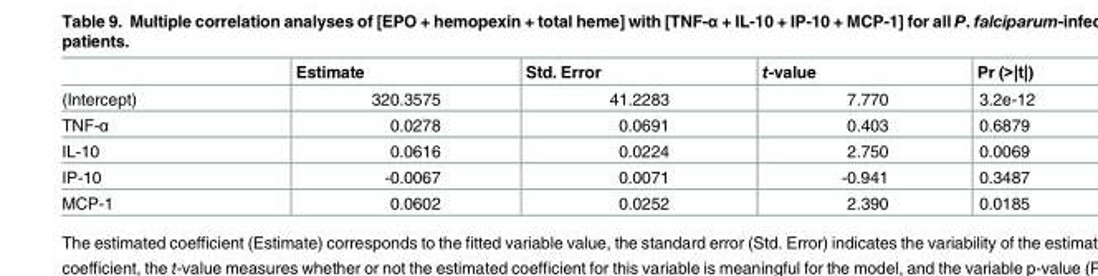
<table><thead><tr><td></td><td>Estimate</td><td>Std. Error</td><td>t-value</td><td>Pr (&gt;|t|)</td></tr></thead><tbody><tr><td>(Intercept)</td><td>320.3575</td><td>41.2283</td><td>7.770</td><td>3.2e-12</td></tr><tr><td>TNF-α</td><td>0.0278</td><td>0.0691</td><td>0.403</td><td>0.6879</td></tr><tr><td>IL-10</td><td>0.0616</td><td>0.0224</td><td>2.750</td><td>0.0069</td></tr><tr><td>IP-10</td><td>-0.0067</td><td>0.0071</td><td>-0.941</td><td>0.3487</td></tr><tr><td>MCP-1</td><td>0.0602</td><td>0.0252</td><td>2.390</td><td>0.0185</td></tr></tbody></table>